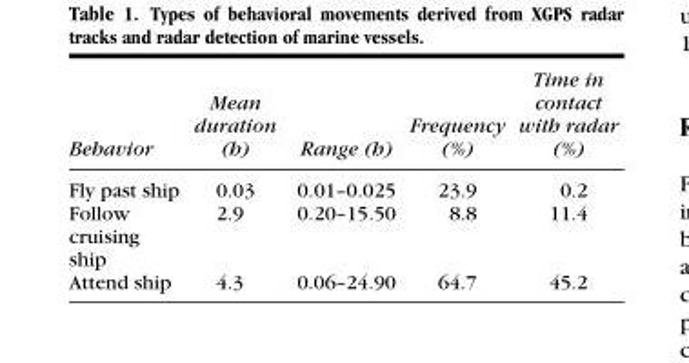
<table><thead><tr><td>Behavior</td><td>Mean duration (h)</td><td>Range (h)</td><td>Frequency (%)</td><td>Time in contact with radar (%)</td></tr></thead><tbody><tr><td>Fly past ship</td><td>0.03</td><td>0.01–0.025</td><td>23.9</td><td>0.2</td></tr><tr><td>Follow cruising ship</td><td>2.9</td><td>0.20–15.50</td><td>8.8</td><td>11.4</td></tr><tr><td>Attend ship</td><td>4.3</td><td>0.06–24.90</td><td>64.7</td><td>45.2</td></tr></tbody></table>